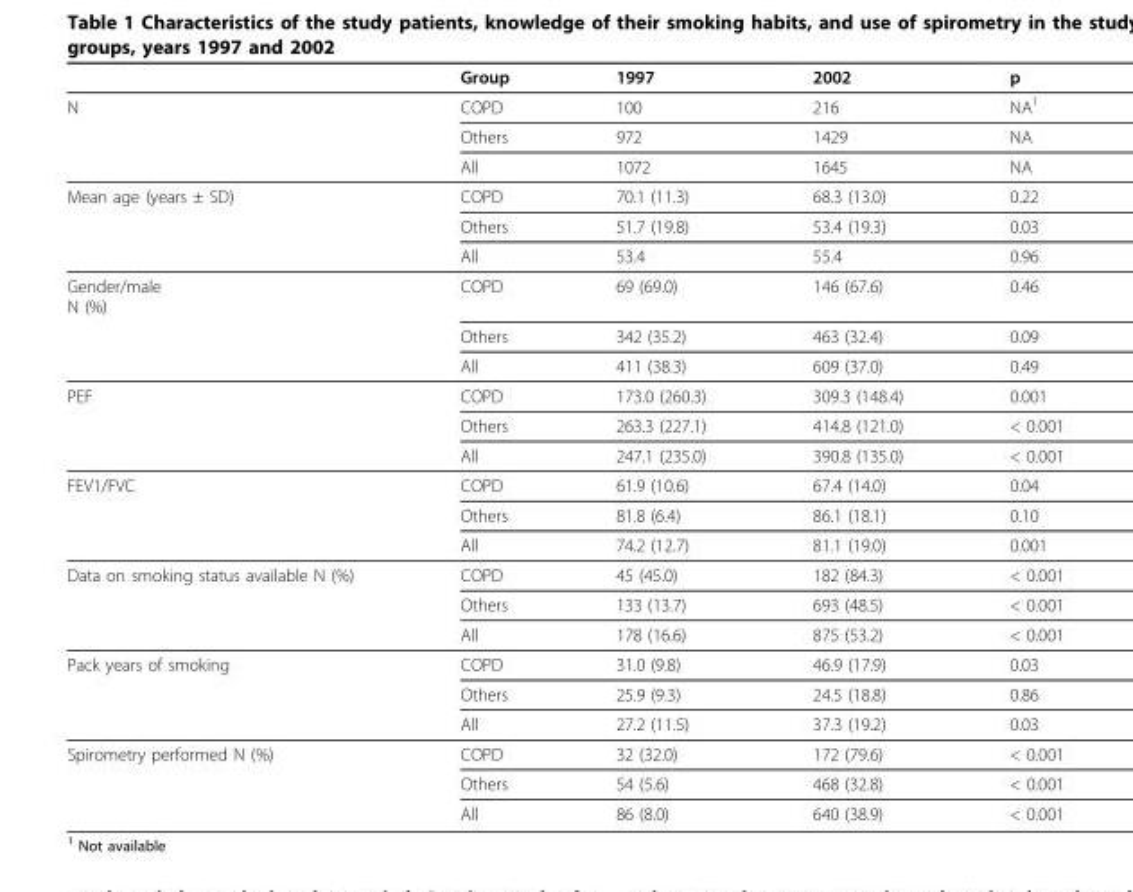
<table><thead><tr><td></td><td>Group</td><td>1997</td><td>2002</td><td>p</td></tr></thead><tbody><tr><td rowspan="3">N</td><td>COPD</td><td>100</td><td>216</td><td>NA<sup>1</sup></td></tr><tr><td>Others</td><td>972</td><td>1429</td><td>NA</td></tr><tr><td>All</td><td>1072</td><td>1645</td><td>NA</td></tr><tr><td rowspan="3">Mean age (years ± SD)</td><td>COPD</td><td>70.1 (11.3)</td><td>68.3 (13.0)</td><td>0.22</td></tr><tr><td>Others</td><td>51.7 (19.8)</td><td>53.4 (19.3)</td><td>0.03</td></tr><tr><td>All</td><td>53.4</td><td>55.4</td><td>0.96</td></tr><tr><td rowspan="3">Gender/male N (%)</td><td>COPD</td><td>69 (69.0)</td><td>146 (67.6)</td><td>0.46</td></tr><tr><td>Others</td><td>342 (35.2)</td><td>463 (32.4)</td><td>0.09</td></tr><tr><td>All</td><td>411 (38.3)</td><td>609 (37.0)</td><td>0.49</td></tr><tr><td rowspan="3">PEF</td><td>COPD</td><td>173.0 (260.3)</td><td>309.3 (148.4)</td><td>0.001</td></tr><tr><td>Others</td><td>263.3 (227.1)</td><td>414.8 (121.0)</td><td>&lt; 0.001</td></tr><tr><td>All</td><td>247.1 (235.0)</td><td>390.8 (135.0)</td><td>&lt; 0.001</td></tr><tr><td rowspan="3">FEV1/FVC</td><td>COPD</td><td>61.9 (10.6)</td><td>67.4 (14.0)</td><td>0.04</td></tr><tr><td>Others</td><td>81.8 (6.4)</td><td>86.1 (18.1)</td><td>0.10</td></tr><tr><td>All</td><td>74.2 (12.7)</td><td>81.1 (19.0)</td><td>0.001</td></tr><tr><td rowspan="3">Data on smoking status available N (%)</td><td>COPD</td><td>45 (45.0)</td><td>182 (84.3)</td><td>&lt; 0.001</td></tr><tr><td>Others</td><td>133 (13.7)</td><td>693 (48.5)</td><td>&lt; 0.001</td></tr><tr><td>All</td><td>178 (16.6)</td><td>875 (53.2)</td><td>&lt; 0.001</td></tr><tr><td rowspan="3">Pack years of smoking</td><td>COPD</td><td>31.0 (9.8)</td><td>46.9 (17.9)</td><td>0.03</td></tr><tr><td>Others</td><td>25.9 (9.3)</td><td>24.5 (18.8)</td><td>0.86</td></tr><tr><td>All</td><td>27.2 (11.5)</td><td>37.3 (19.2)</td><td>0.03</td></tr><tr><td rowspan="3">Spirometry performed N (%)</td><td>COPD</td><td>32 (32.0)</td><td>172 (79.6)</td><td>&lt; 0.001</td></tr><tr><td>Others</td><td>54 (5.6)</td><td>468 (32.8)</td><td>&lt; 0.001</td></tr><tr><td>All</td><td>86 (8.0)</td><td>640 (38.9)</td><td>&lt; 0.001</td></tr></tbody></table>